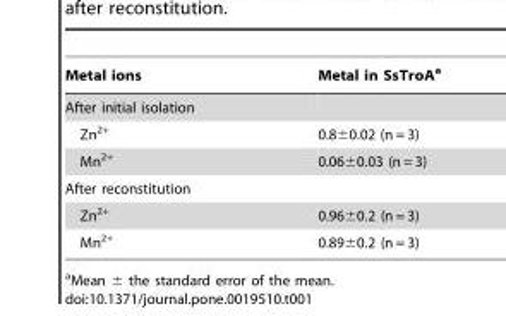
<table><thead><tr><td>Metal ions</td><td>Metal in SsTroA<sup>a</sup></td></tr></thead><tbody><tr><td colspan="2">After initial isolation</td></tr><tr><td>Zn<sup>2+</sup></td><td>0.8±0.02 (n = 3)</td></tr><tr><td>Mn<sup>2+</sup></td><td>0.06±0.03 (n = 3)</td></tr><tr><td colspan="2">After reconstitution</td></tr><tr><td>Zn<sup>2+</sup></td><td>0.96±0.2 (n = 3)</td></tr><tr><td>Mn<sup>2+</sup></td><td>0.89±0.2 (n = 3)</td></tr></tbody></table>